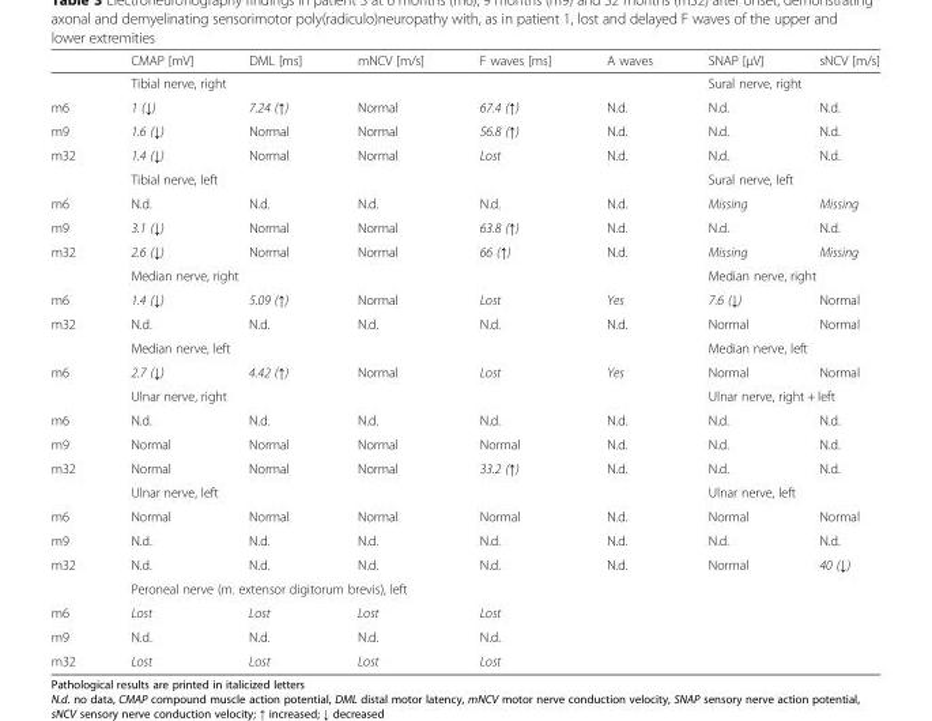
<table><thead><tr><td></td><td>CMAP [mV]</td><td>DML [ms]</td><td>mNCV [m/s]</td><td>F waves [ms]</td><td>A waves</td><td>SNAP [μV]</td><td>sNCV [m/s]</td></tr></thead><tbody><tr><td></td><td colspan="5">Tibial nerve, right</td><td colspan="2">Sural nerve, right</td></tr><tr><td>m6</td><td>1 (↓)</td><td>7.24 (↑)</td><td>Normal</td><td>67.4 (↑)</td><td>N.d.</td><td>N.d.</td><td>N.d.</td></tr><tr><td>m9</td><td>1.6 (↓)</td><td>Normal</td><td>Normal</td><td>56.8 (↑)</td><td>N.d.</td><td>N.d.</td><td>N.d.</td></tr><tr><td rowspan="2">m32</td><td>1.4 (↓)</td><td>Normal</td><td>Normal</td><td>Lost</td><td>N.d.</td><td>N.d.</td><td>N.d.</td></tr><tr><td colspan="5">Tibial nerve, left</td><td colspan="2">Sural nerve, left</td></tr><tr><td>m6</td><td>N.d.</td><td>N.d.</td><td>N.d.</td><td>N.d.</td><td>N.d.</td><td>Missing</td><td>Missing</td></tr><tr><td>m9</td><td>3.1 (↓)</td><td>Normal</td><td>Normal</td><td>63.8 (↑)</td><td>N.d.</td><td>N.d.</td><td>N.d.</td></tr><tr><td rowspan="2">m32</td><td>2.6 (↓)</td><td>Normal</td><td>Normal</td><td>66 (↑)</td><td>N.d.</td><td>Missing</td><td>Missing</td></tr><tr><td colspan="5">Median nerve, right</td><td colspan="2">Median nerve, right</td></tr><tr><td>m6</td><td>1.4 (↓)</td><td>5.09 (↑)</td><td>Normal</td><td>Lost</td><td>Yes</td><td>7.6 (↓)</td><td>Normal</td></tr><tr><td rowspan="2">m32</td><td>N.d.</td><td>N.d.</td><td>N.d.</td><td>N.d.</td><td>N.d.</td><td>Normal</td><td>Normal</td></tr><tr><td colspan="5">Median nerve, left</td><td colspan="2">Median nerve, left</td></tr><tr><td rowspan="2">m6</td><td>2.7 (↓)</td><td>4.42 (↑)</td><td>Normal</td><td>Lost</td><td>Yes</td><td>Normal</td><td>Normal</td></tr><tr><td colspan="5">Ulnar nerve, right</td><td colspan="2">Ulnar nerve, right + left</td></tr><tr><td>m6</td><td>N.d.</td><td>N.d.</td><td>N.d.</td><td>N.d.</td><td>N.d.</td><td>N.d.</td><td>N.d.</td></tr><tr><td>m9</td><td>Normal</td><td>Normal</td><td>Normal</td><td>Normal</td><td>N.d.</td><td>N.d.</td><td>N.d.</td></tr><tr><td rowspan="2">m32</td><td>Normal</td><td>Normal</td><td>Normal</td><td>33.2 (↑)</td><td>N.d.</td><td>N.d.</td><td>N.d.</td></tr><tr><td colspan="5">Ulnar nerve, left</td><td colspan="2">Ulnar nerve, left</td></tr><tr><td>m6</td><td>Normal</td><td>Normal</td><td>Normal</td><td>Normal</td><td>N.d.</td><td>Normal</td><td>Normal</td></tr><tr><td>m9</td><td>N.d.</td><td>N.d.</td><td>N.d.</td><td>N.d.</td><td>N.d.</td><td>N.d.</td><td>N.d.</td></tr><tr><td rowspan="2">m32</td><td>N.d.</td><td>N.d.</td><td>N.d.</td><td>N.d.</td><td>N.d.</td><td>Normal</td><td>40 (↓)</td></tr><tr><td colspan="5">Peroneal nerve (m. extensor digitorum brevis), left</td><td colspan="2"></td></tr><tr><td>m6</td><td>Lost</td><td>Lost</td><td>Lost</td><td>Lost</td><td></td><td></td><td></td></tr><tr><td>m9</td><td>N.d.</td><td>N.d.</td><td>N.d.</td><td>N.d.</td><td></td><td></td><td></td></tr><tr><td>m32</td><td>Lost</td><td>Lost</td><td>Lost</td><td>Lost</td><td></td><td></td><td></td></tr></tbody></table>